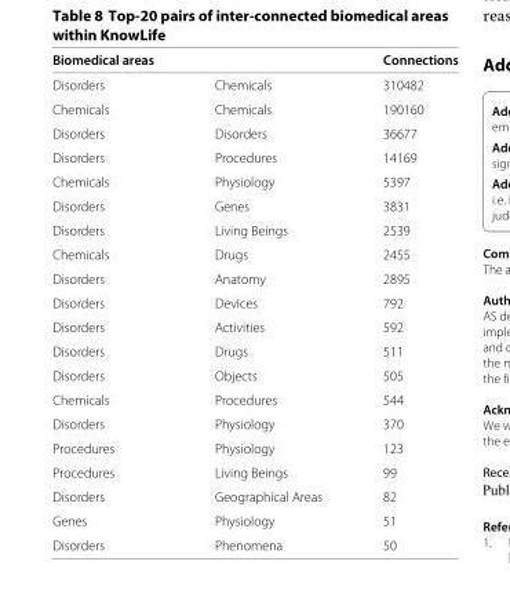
<table><thead><tr><td>Biomedical areas</td><td></td><td>Connections</td></tr></thead><tbody><tr><td>Disorders</td><td>Chemicals</td><td>310482</td></tr><tr><td>Chemicals</td><td>Chemicals</td><td>190160</td></tr><tr><td>Disorders</td><td>Disorders</td><td>36677</td></tr><tr><td>Disorders</td><td>Procedures</td><td>14169</td></tr><tr><td>Chemicals</td><td>Physiology</td><td>5397</td></tr><tr><td>Disorders</td><td>Genes</td><td>3831</td></tr><tr><td>Disorders</td><td>Living Beings</td><td>2539</td></tr><tr><td>Chemicals</td><td>Drugs</td><td>2455</td></tr><tr><td>Disorders</td><td>Anatomy</td><td>2895</td></tr><tr><td>Disorders</td><td>Devices</td><td>792</td></tr><tr><td>Disorders</td><td>Activities</td><td>592</td></tr><tr><td>Disorders</td><td>Drugs</td><td>511</td></tr><tr><td>Disorders</td><td>Objects</td><td>505</td></tr><tr><td>Chemicals</td><td>Procedures</td><td>544</td></tr><tr><td>Disorders</td><td>Physiology</td><td>370</td></tr><tr><td>Procedures</td><td>Physiology</td><td>123</td></tr><tr><td>Procedures</td><td>Living Beings</td><td>99</td></tr><tr><td>Disorders</td><td>Geographical Areas</td><td>82</td></tr><tr><td>Genes</td><td>Physiology</td><td>51</td></tr><tr><td>Disorders</td><td>Phenomena</td><td>50</td></tr></tbody></table>